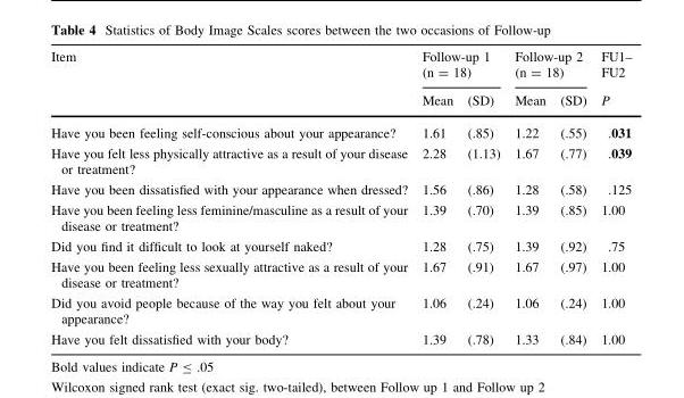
<table><thead><tr><td rowspan="2">Item</td><td colspan="2">Follow-up 1 (n = 18)</td><td colspan="2">Follow-up 2 (n = 18)</td><td rowspan="2">FU1– FU2 P</td></tr><tr><td>Mean</td><td>(SD)</td><td>Mean</td><td>(SD)</td></tr></thead><tbody><tr><td>Have you been feeling self-conscious about your appearance?</td><td>1.61</td><td>(.85)</td><td>1.22</td><td>(.55)</td><td>.031</td></tr><tr><td>Have you felt less physically attractive as a result of your disease or treatment?</td><td>2.28</td><td>(1.13)</td><td>1.67</td><td>(.77)</td><td>.039</td></tr><tr><td>Have you been dissatisfied with your appearance when dressed?</td><td>1.56</td><td>(.86)</td><td>1.28</td><td>(.58)</td><td>.125</td></tr><tr><td>Have you been feeling less feminine/masculine as a result of your disease or treatment?</td><td>1.39</td><td>(.70)</td><td>1.39</td><td>(.85)</td><td>1.00</td></tr><tr><td>Did you find it difficult to look at yourself naked?</td><td>1.28</td><td>(.75)</td><td>1.39</td><td>(.92)</td><td>.75</td></tr><tr><td>Have you been feeling less sexually attractive as a result of your disease or treatment?</td><td>1.67</td><td>(.91)</td><td>1.67</td><td>(.97)</td><td>1.00</td></tr><tr><td>Did you avoid people because of the way you felt about your appearance?</td><td>1.06</td><td>(.24)</td><td>1.06</td><td>(.24)</td><td>1.00</td></tr><tr><td>Have you felt dissatisfied with your body?</td><td>1.39</td><td>(.78)</td><td>1.33</td><td>(.84)</td><td>1.00</td></tr></tbody></table>